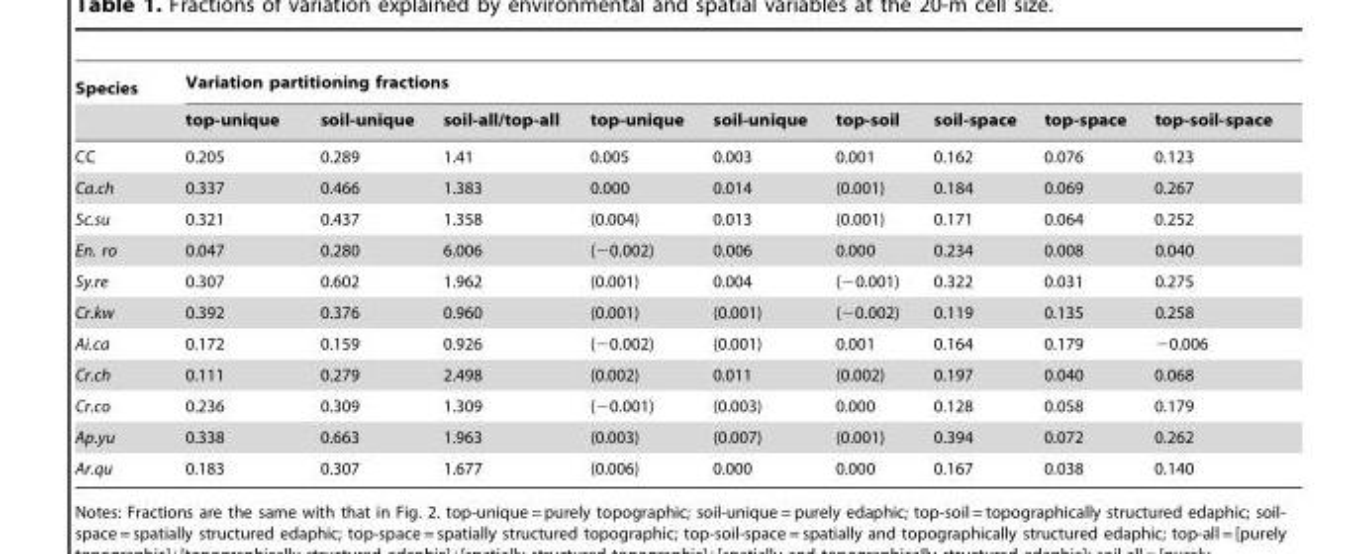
<table><thead><tr><td rowspan="2">Species</td><td colspan="9">Variation partitioning fractions</td></tr><tr><td>top-unique</td><td>soil-unique</td><td>soil-all/top-all</td><td>top-unique</td><td>soil-unique</td><td>top-soil</td><td>soil-space</td><td>top-space</td><td>top-soil-space</td></tr></thead><tbody><tr><td>CC</td><td>0.205</td><td>0.289</td><td>1.41</td><td>0.005</td><td>0.003</td><td>0.001</td><td>0.162</td><td>0.076</td><td>0.123</td></tr><tr><td>Ca.ch</td><td>0.337</td><td>0.466</td><td>1.383</td><td>0.000</td><td>0.014</td><td>(0.001)</td><td>0.184</td><td>0.069</td><td>0.267</td></tr><tr><td>Sc.su</td><td>0.321</td><td>0.437</td><td>1.358</td><td>(0.004)</td><td>0.013</td><td>(0.001)</td><td>0.171</td><td>0.064</td><td>0.252</td></tr><tr><td>En. ro</td><td>0.047</td><td>0.280</td><td>6.006</td><td>(−0.002)</td><td>0.006</td><td>0.000</td><td>0.234</td><td>0.008</td><td>0.040</td></tr><tr><td>Sy.re</td><td>0.307</td><td>0.602</td><td>1.962</td><td>(0.001)</td><td>0.004</td><td>(−0.001)</td><td>0.322</td><td>0.031</td><td>0.275</td></tr><tr><td>Cr.kw</td><td>0.392</td><td>0.376</td><td>0.960</td><td>(0.001)</td><td>(0.001)</td><td>(−0.002)</td><td>0.119</td><td>0.135</td><td>0.258</td></tr><tr><td>Ai.ca</td><td>0.172</td><td>0.159</td><td>0.926</td><td>(−0.002)</td><td>(0.001)</td><td>0.001</td><td>0.164</td><td>0.179</td><td>−0.006</td></tr><tr><td>Cr.ch</td><td>0.111</td><td>0.279</td><td>2.498</td><td>(0.002)</td><td>0.011</td><td>(0.002)</td><td>0.197</td><td>0.040</td><td>0.068</td></tr><tr><td>Cr.co</td><td>0.236</td><td>0.309</td><td>1.309</td><td>(−0.001)</td><td>(0.003)</td><td>0.000</td><td>0.128</td><td>0.058</td><td>0.179</td></tr><tr><td>Ap.yu</td><td>0.338</td><td>0.663</td><td>1.963</td><td>(0.003)</td><td>(0.007)</td><td>(0.001)</td><td>0.394</td><td>0.072</td><td>0.262</td></tr><tr><td>Ar.qu</td><td>0.183</td><td>0.307</td><td>1.677</td><td>(0.006)</td><td>0.000</td><td>0.000</td><td>0.167</td><td>0.038</td><td>0.140</td></tr></tbody></table>